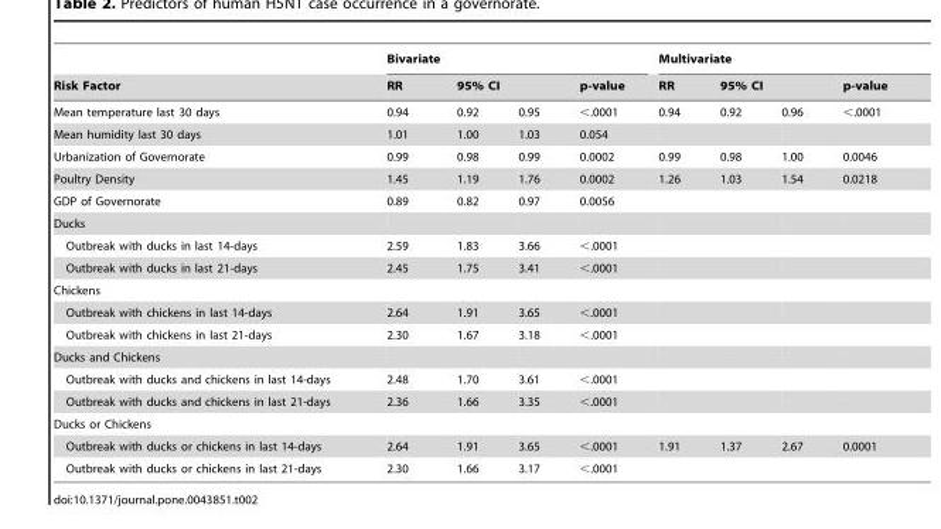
<table><thead><tr><td rowspan="3">Risk Factor Mean temperature last 30 days</td><td colspan="4">Bivariate</td><td colspan="4">Multivariate</td></tr><tr><td rowspan="2">RR 0.94</td><td colspan="2">95% CI</td><td rowspan="2">p-value &lt;.0001</td><td rowspan="2">RR 0.94</td><td colspan="2">95% CI</td><td rowspan="2">p-value &lt;.0001</td></tr><tr><td>0.92</td><td>0.95</td><td>0.92</td><td>0.96</td></tr></thead><tbody><tr><td>Mean humidity last 30 days</td><td>1.01</td><td>1.00</td><td>1.03</td><td>0.054</td><td></td><td></td><td></td><td></td></tr><tr><td>Urbanization of Governorate</td><td>0.99</td><td>0.98</td><td>0.99</td><td>0.0002</td><td>0.99</td><td>0.98</td><td>1.00</td><td>0.0046</td></tr><tr><td>Poultry Density</td><td>1.45</td><td>1.19</td><td>1.76</td><td>0.0002</td><td>1.26</td><td>1.03</td><td>1.54</td><td>0.0218</td></tr><tr><td>GDP of Governorate</td><td>0.89</td><td>0.82</td><td>0.97</td><td>0.0056</td><td></td><td></td><td></td><td></td></tr><tr><td colspan="9">Ducks</td></tr><tr><td>Outbreak with ducks in last 14-days</td><td>2.59</td><td>1.83</td><td>3.66</td><td>&lt;.0001</td><td></td><td></td><td></td><td></td></tr><tr><td>Outbreak with ducks in last 21-days</td><td>2.45</td><td>1.75</td><td>3.41</td><td>&lt;.0001</td><td></td><td></td><td></td><td></td></tr><tr><td colspan="9">Chickens</td></tr><tr><td>Outbreak with chickens in last 14-days</td><td>2.64</td><td>1.91</td><td>3.65</td><td>&lt;.0001</td><td></td><td></td><td></td><td></td></tr><tr><td>Outbreak with chickens in last 21-days</td><td>2.30</td><td>1.67</td><td>3.18</td><td>&lt;.0001</td><td></td><td></td><td></td><td></td></tr><tr><td colspan="9">Ducks and Chickens</td></tr><tr><td>Outbreak with ducks and chickens in last 14-days</td><td>2.48</td><td>1.70</td><td>3.61</td><td>&lt;.0001</td><td></td><td></td><td></td><td></td></tr><tr><td>Outbreak with ducks and chickens in last 21-days</td><td>2.36</td><td>1.66</td><td>3.35</td><td>&lt;.0001</td><td></td><td></td><td></td><td></td></tr><tr><td colspan="9">Ducks or Chickens</td></tr><tr><td>Outbreak with ducks or chickens in last 14-days</td><td>2.64</td><td>1.91</td><td>3.65</td><td>&lt;.0001</td><td>1.91</td><td>1.37</td><td>2.67</td><td>0.0001</td></tr><tr><td>Outbreak with ducks or chickens in last 21-days</td><td>2.30</td><td>1.66</td><td>3.17</td><td>&lt;.0001</td><td></td><td></td><td></td><td></td></tr></tbody></table>